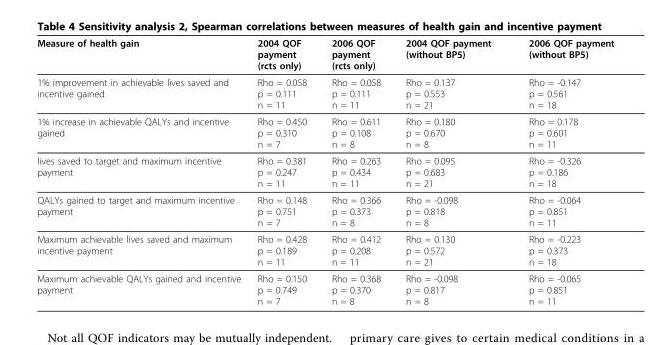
<table><thead><tr><td>Measure of health gain</td><td>2004 QOF payment (rcts only)</td><td>2006 QOF payment (rcts only)</td><td>2004 QOF payment (without BP5)</td><td>2006 QOF payment (without BP5)</td></tr></thead><tbody><tr><td>1% improvement in achievable lives saved and incentive gained</td><td>Rho = 0.058 p = 0.111 n = 11</td><td>Rho = 0.058 p = 0.111 n = 11</td><td>Rho = 0.137 p = 0.553 n = 21</td><td>Rho = -0.147 p = 0.561 n = 18</td></tr><tr><td>1% increase in achievable QALYs and incentive gained</td><td>Rho = 0.450 p = 0.310 n = 7</td><td>Rho = 0.611 p = 0.108 n = 8</td><td>Rho = 0.180 p = 0.670 n = 8</td><td>Rho = 0.178 p = 0.601 n = 11</td></tr><tr><td>lives saved to target and maximum incentive payment</td><td>Rho = 0.381 p = 0.247 n = 11</td><td>Rho = 0.263 p = 0.434 n = 11</td><td>Rho = 0.095 p = 0.683 n = 21</td><td>Rho = -0.326 p = 0.186 n = 18</td></tr><tr><td>QALYs gained to target and maximum incentive payment</td><td>Rho = 0.148 p = 0.751 n = 7</td><td>Rho = 0.366 p = 0.373 n = 8</td><td>Rho = -0.098 p = 0.818 n = 8</td><td>Rho = -0.064 p = 0.851 n = 11</td></tr><tr><td>Maximum achievable lives saved and maximum incentive payment</td><td>Rho = 0.428 p = 0.189 n = 11</td><td>Rho = 0.412 p = 0.208 n = 11</td><td>Rho = 0.130 p = 0.572 n = 21</td><td>Rho = -0.223 p = 0.373 n = 18</td></tr><tr><td>Maximum achievable QALYs gained and incentive payment</td><td>Rho = 0.150 p = 0.749 n = 7</td><td>Rho = 0.368 p = 0.370 n = 8</td><td>Rho = -0.098 p = 0.817 n = 8</td><td>Rho = -0.065 p = 0.851 n = 11</td></tr></tbody></table>